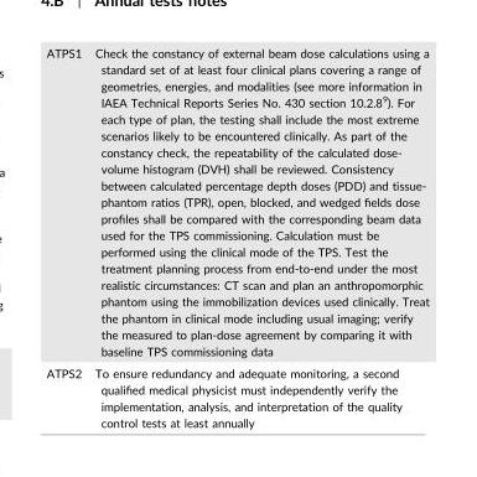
<table><tbody><tr><td>ATPS1</td><td>Check the constancy of external beam dose calculations using a standard set of at least four clinical plans covering a range of geometries, energies, and modalities (see more information in IAEA Technical Reports Series No. 430 section 10.2.8<sup>9</sup>). For each type of plan, the testing shall include the most extreme scenarios likely to be encountered clinically. As part of the constancy check, the repeatability of the calculated dose- volume histogram (DVH) shall be reviewed. Consistency between calculated percentage depth doses (PDD) and tissue- phantom ratios (TPR), open, blocked, and wedged fields dose profiles shall be compared with the corresponding beam data used for the TPS commissioning. Calculation must be performed using the clinical mode of the TPS. Test the treatment planning process from end-to-end under the most realistic circumstances: CT scan and plan an anthropomorphic phantom using the immobilization devices used clinically. Treat the phantom in clinical mode including usual imaging; verify the measured to plan-dose agreement by comparing it with baseline TPS commissioning data</td></tr><tr><td>ATPS2</td><td>To ensure redundancy and adequate monitoring, a second qualified medical physicist must independently verify the implementation, analysis, and interpretation of the quality control tests at least annually</td></tr></tbody></table>